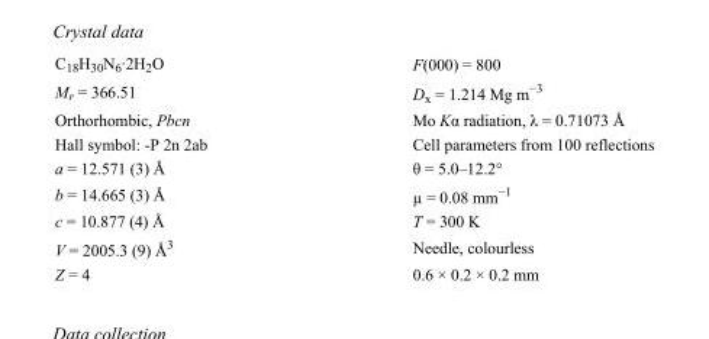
<table><tbody><tr><td>C<sub>18</sub>H<sub>30</sub>N<sub>6</sub>·2H<sub>2</sub>O</td><td>F(000) = 800</td></tr><tr><td>M<sub>r</sub> = 366.51</td><td>D<sub>x</sub> = 1.214 Mg m<sup>−3</sup></td></tr><tr><td>Orthorhombic, Pbcn</td><td>Mo Kα radiation, λ = 0.71073 Å</td></tr><tr><td>Hall symbol: -P 2n 2ab</td><td>Cell parameters from 100 reflections</td></tr><tr><td>a = 12.571 (3) Å</td><td>θ = 5.0–12.2°</td></tr><tr><td>b = 14.665 (3) Å</td><td>µ = 0.08 mm<sup>−1</sup></td></tr><tr><td>c = 10.877 (4) Å</td><td>T = 300 K</td></tr><tr><td>V = 2005.3 (9) Å<sup>3</sup></td><td>Needle, colourless</td></tr><tr><td>Z = 4</td><td>0.6 × 0.2 × 0.2 mm</td></tr></tbody></table>